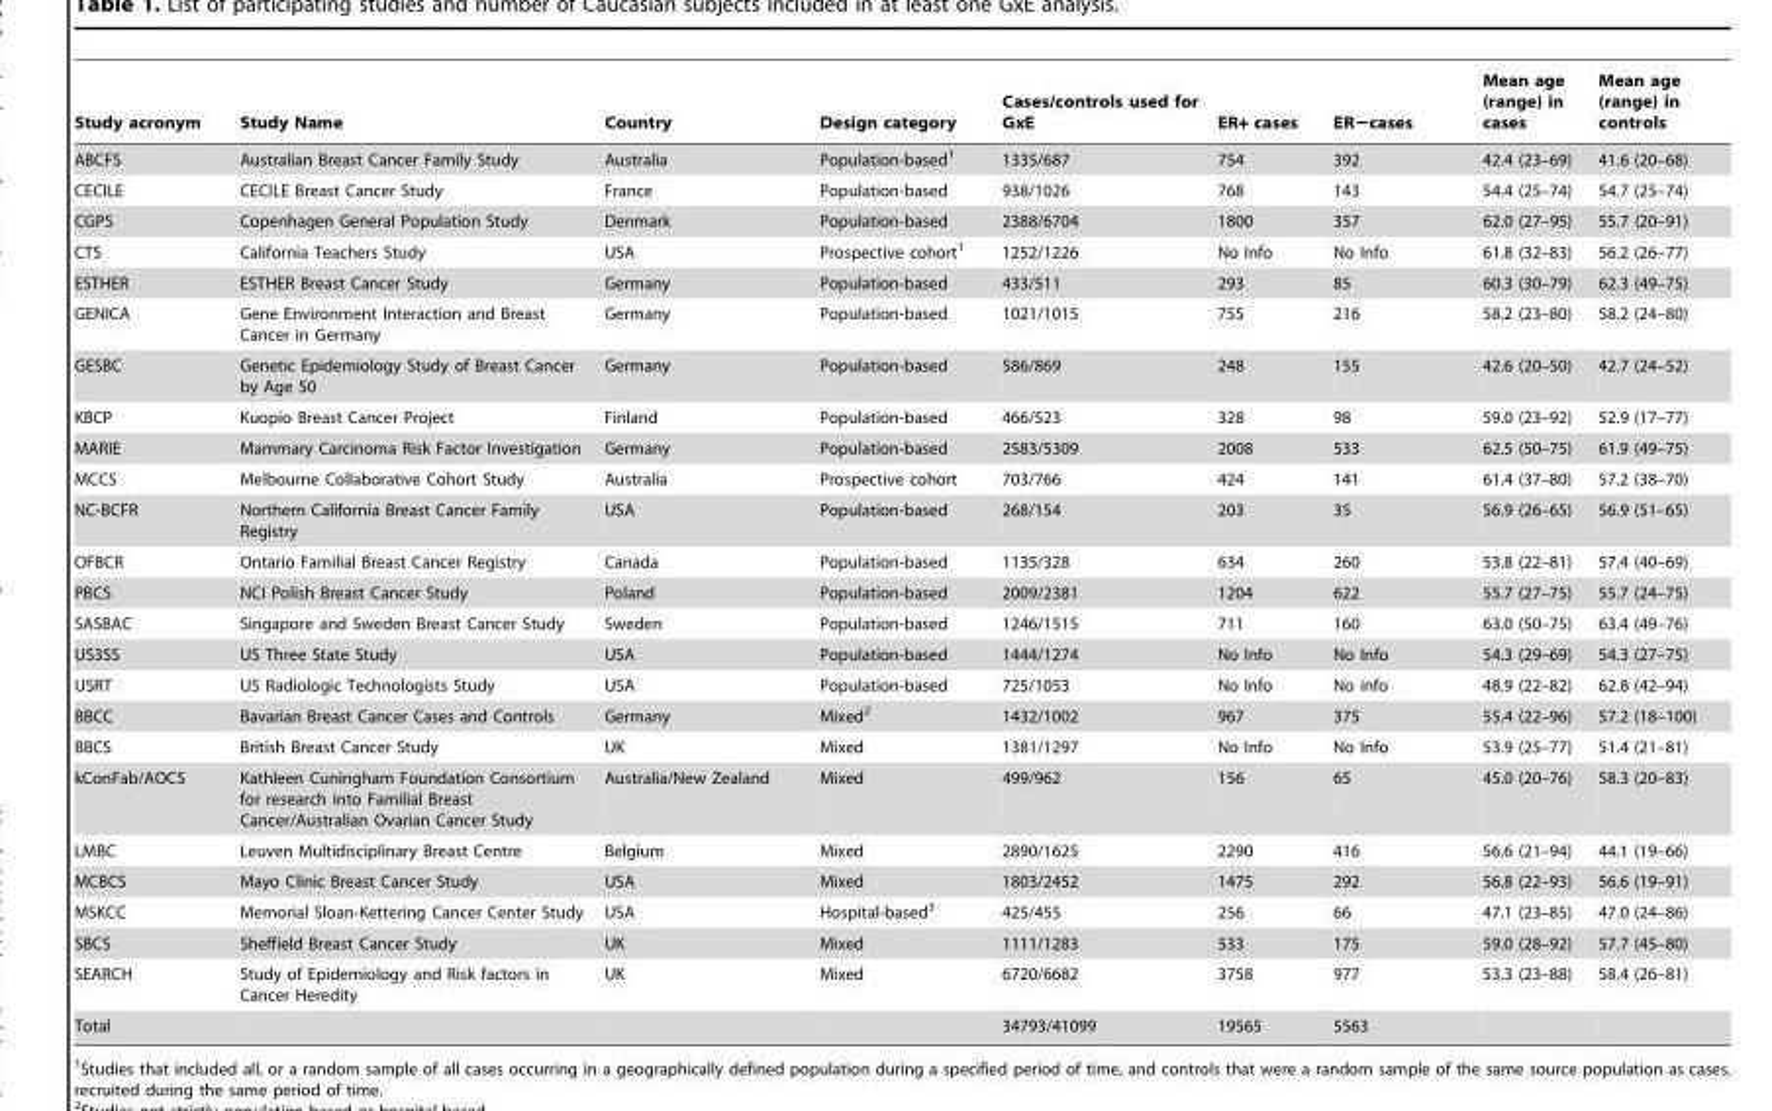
<table><thead><tr><td>Study acronym</td><td>Study Name</td><td>Country</td><td>Design category</td><td>Cases/controls used for GxE</td><td>ER+ cases</td><td>ER−cases</td><td>Mean age (range) in cases</td><td>Mean age (range) in controls</td></tr></thead><tbody><tr><td>ABCFS</td><td>Australian Breast Cancer Family Study</td><td>Australia</td><td>Population-based<sup>1</sup></td><td>1335/687</td><td>754</td><td>392</td><td>42.4 (23–69)</td><td>41.6 (20–68)</td></tr><tr><td>CECILE</td><td>CECILE Breast Cancer Study</td><td>France</td><td>Population-based</td><td>938/1026</td><td>768</td><td>143</td><td>54.4 (25–74)</td><td>54.7 (25–74)</td></tr><tr><td>CGPS</td><td>Copenhagen General Population Study</td><td>Denmark</td><td>Population-based</td><td>2388/6704</td><td>1800</td><td>357</td><td>62.0 (27–95)</td><td>55.7 (20–91)</td></tr><tr><td>CTS</td><td>California Teachers Study</td><td>USA</td><td>Prospective cohort<sup>1</sup></td><td>1252/1226</td><td>No Info</td><td>No Info</td><td>61.8 (32–83)</td><td>56.2 (26–77)</td></tr><tr><td>ESTHER</td><td>ESTHER Breast Cancer Study</td><td>Germany</td><td>Population-based</td><td>433/511</td><td>293</td><td>85</td><td>60.3 (30–79)</td><td>62.3 (49–75)</td></tr><tr><td>GENICA</td><td>Gene Environment Interaction and Breast Cancer in Germany</td><td>Germany</td><td>Population-based</td><td>1021/1015</td><td>755</td><td>216</td><td>58.2 (23–80)</td><td>58.2 (24–80)</td></tr><tr><td>GESBC</td><td>Genetic Epidemiology Study of Breast Cancer by Age 50</td><td>Germany</td><td>Population-based</td><td>586/869</td><td>248</td><td>155</td><td>42.6 (20–50)</td><td>42.7 (24–52)</td></tr><tr><td>KBCP</td><td>Kuopio Breast Cancer Project</td><td>Finland</td><td>Population-based</td><td>466/523</td><td>328</td><td>98</td><td>59.0 (23–92)</td><td>52.9 (17–77)</td></tr><tr><td>MARIE</td><td>Mammary Carcinoma Risk Factor Investigation</td><td>Germany</td><td>Population-based</td><td>2583/5309</td><td>2008</td><td>533</td><td>62.5 (50–75)</td><td>61.9 (49–75)</td></tr><tr><td>MCCS</td><td>Melbourne Collaborative Cohort Study</td><td>Australia</td><td>Prospective cohort</td><td>703/766</td><td>424</td><td>141</td><td>61.4 (37–80)</td><td>57.2 (38–70)</td></tr><tr><td>NC-BCFR</td><td>Northern California Breast Cancer Family Registry</td><td>USA</td><td>Population-based</td><td>268/154</td><td>203</td><td>35</td><td>56.9 (26–65)</td><td>56.9 (51–65)</td></tr><tr><td>OFBCR</td><td>Ontario Familial Breast Cancer Registry</td><td>Canada</td><td>Population-based</td><td>1135/328</td><td>634</td><td>260</td><td>53.8 (22–81)</td><td>57.4 (40–69)</td></tr><tr><td>PBCS</td><td>NCI Polish Breast Cancer Study</td><td>Poland</td><td>Population-based</td><td>2009/2381</td><td>1204</td><td>622</td><td>55.7 (27–75)</td><td>55.7 (24–75)</td></tr><tr><td>SASBAC</td><td>Singapore and Sweden Breast Cancer Study</td><td>Sweden</td><td>Population-based</td><td>1246/1515</td><td>711</td><td>160</td><td>63.0 (50–75)</td><td>63.4 (49–76)</td></tr><tr><td>US3SS</td><td>US Three State Study</td><td>USA</td><td>Population-based</td><td>1444/1274</td><td>No Info</td><td>No Info</td><td>54.3 (29–69)</td><td>54.3 (27–75)</td></tr><tr><td>USRT</td><td>US Radiologic Technologists Study</td><td>USA</td><td>Population-based</td><td>725/1053</td><td>No Info</td><td>No info</td><td>48.9 (22–82)</td><td>62.8 (42–94)</td></tr><tr><td>BBCC</td><td>Bavarian Breast Cancer Cases and Controls</td><td>Germany</td><td>Mixed<sup>2</sup></td><td>1432/1002</td><td>967</td><td>375</td><td>55.4 (22–96)</td><td>57.2 (18–100)</td></tr><tr><td>BBCS</td><td>British Breast Cancer Study</td><td>UK</td><td>Mixed</td><td>1381/1297</td><td>No Info</td><td>No Info</td><td>53.9 (25–77)</td><td>51.4 (21–81)</td></tr><tr><td>kConFab/AOCS</td><td>Kathleen Cuningham Foundation Consortium for research into Familial Breast Cancer/Australian Ovarian Cancer Study</td><td>Australia/New Zealand</td><td>Mixed</td><td>499/962</td><td>156</td><td>65</td><td>45.0 (20–76)</td><td>58.3 (20–83)</td></tr><tr><td>LMBC</td><td>Leuven Multidisciplinary Breast Centre</td><td>Belgium</td><td>Mixed</td><td>2890/1625</td><td>2290</td><td>416</td><td>56.6 (21–94)</td><td>44.1 (19–66)</td></tr><tr><td>MCBCS</td><td>Mayo Clinic Breast Cancer Study</td><td>USA</td><td>Mixed</td><td>1803/2452</td><td>1475</td><td>292</td><td>56.8 (22–93)</td><td>56.6 (19–91)</td></tr><tr><td>MSKCC</td><td>Memorial Sloan-Kettering Cancer Center Study</td><td>USA</td><td>Hospital-based<sup>3</sup></td><td>425/455</td><td>256</td><td>66</td><td>47.1 (23–85)</td><td>47.0 (24–86)</td></tr><tr><td>SBCS</td><td>Sheffield Breast Cancer Study</td><td>UK</td><td>Mixed</td><td>1111/1283</td><td>533</td><td>175</td><td>59.0 (28–92)</td><td>57.7 (45–80)</td></tr><tr><td>SEARCH</td><td>Study of Epidemiology and Risk factors in Cancer Heredity</td><td>UK</td><td>Mixed</td><td>6720/6682</td><td>3758</td><td>977</td><td>53.3 (23–88)</td><td>58.4 (26–81)</td></tr><tr><td>Total</td><td></td><td></td><td></td><td>34793/41099</td><td>19565</td><td>5563</td><td></td><td></td></tr></tbody></table>